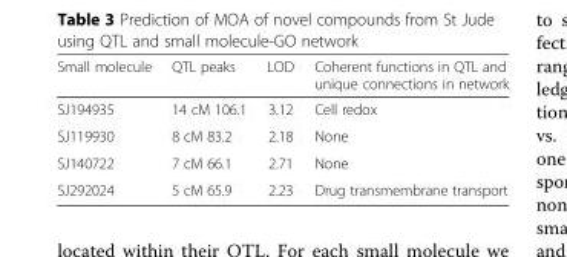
<table><thead><tr><td>Small molecule</td><td>QTL peaks</td><td>LOD</td><td>Coherent functions in QTL and unique connections in network</td></tr></thead><tbody><tr><td>SJ194935</td><td>14 cM 106.1</td><td>3.12</td><td>Cell redox</td></tr><tr><td>SJ119930</td><td>8 cM 83.2</td><td>2.18</td><td>None</td></tr><tr><td>SJ140722</td><td>7 cM 66.1</td><td>2.71</td><td>None</td></tr><tr><td>SJ292024</td><td>5 cM 65.9</td><td>2.23</td><td>Drug transmembrane transport</td></tr></tbody></table>